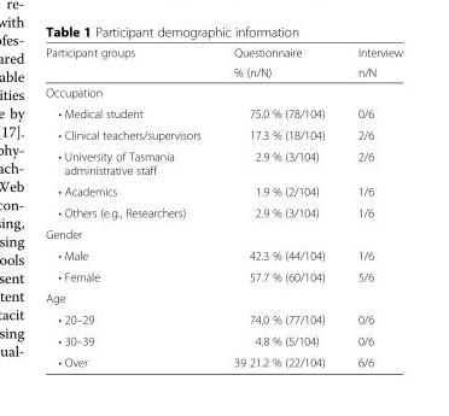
<table><thead><tr><td rowspan="2">Participant groups</td><td rowspan="2">Questionnaire % (n/N)</td><td rowspan="2">Interview n/N</td></tr><tr></tr></thead><tbody><tr><td colspan="3">Occupation</td></tr><tr><td>• Medical student</td><td>75.0 % (78/104)</td><td>0/6</td></tr><tr><td>• Clinical teachers/supervisors</td><td>17.3 % (18/104)</td><td>2/6</td></tr><tr><td>• University of Tasmania administrative staff</td><td>2.9 % (3/104)</td><td>2/6</td></tr><tr><td>• Academics</td><td>1.9 % (2/104)</td><td>1/6</td></tr><tr><td>• Others (e.g., Researchers)</td><td>2.9 % (3/104)</td><td>1/6</td></tr><tr><td colspan="3">Gender</td></tr><tr><td>• Male</td><td>42.3 % (44/104)</td><td>1/6</td></tr><tr><td>• Female</td><td>57.7 % (60/104)</td><td>5/6</td></tr><tr><td colspan="3">Age</td></tr><tr><td>• 20–29</td><td>74.0 % (77/104)</td><td>0/6</td></tr><tr><td>• 30–39</td><td>4.8 % (5/104)</td><td>0/6</td></tr><tr><td>• Over</td><td>39 21.2 % (22/104)</td><td>6/6</td></tr></tbody></table>